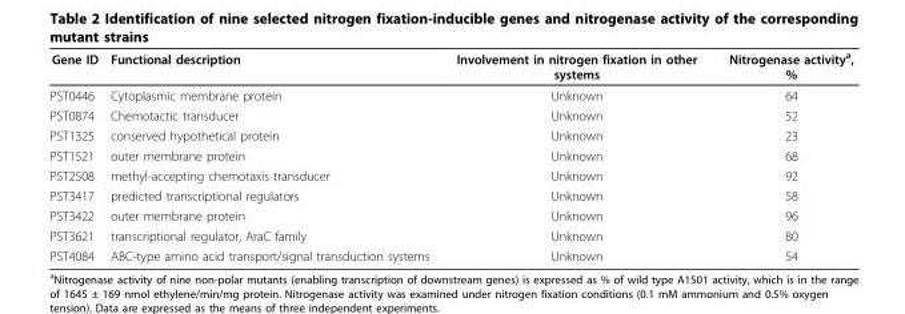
<table><thead><tr><td>Gene ID</td><td>Functional description</td><td>Involvement in nitrogen fixation in other systems</td><td>Nitrogenase activity<sup>a</sup>, %</td></tr></thead><tbody><tr><td>PST0446</td><td>Cytoplasmic membrane protein</td><td>Unknown</td><td>64</td></tr><tr><td>PST0874</td><td>Chemotactic transducer</td><td>Unknown</td><td>52</td></tr><tr><td>PST1325</td><td>conserved hypothetical protein</td><td>Unknown</td><td>23</td></tr><tr><td>PST1521</td><td>outer membrane protein</td><td>Unknown</td><td>68</td></tr><tr><td>PST2508</td><td>methyl-accepting chemotaxis transducer</td><td>Unknown</td><td>92</td></tr><tr><td>PST3417</td><td>predicted transcriptional regulators</td><td>Unknown</td><td>58</td></tr><tr><td>PST3422</td><td>outer membrane protein</td><td>Unknown</td><td>96</td></tr><tr><td>PST3621</td><td>transcriptional regulator, AraC family</td><td>Unknown</td><td>80</td></tr><tr><td>PST4084</td><td>ABC-type amino acid transport/signal transduction systems</td><td>Unknown</td><td>54</td></tr></tbody></table>